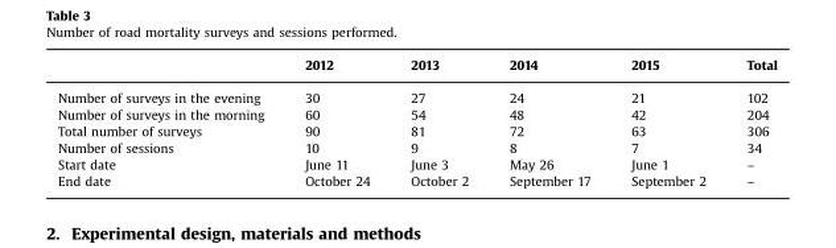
<table><thead><tr><td></td><td>2012</td><td>2013</td><td>2014</td><td>2015</td><td>Total</td></tr></thead><tbody><tr><td>Number of surveys in the evening</td><td>30</td><td>27</td><td>24</td><td>21</td><td>102</td></tr><tr><td>Number of surveys in the morning</td><td>60</td><td>54</td><td>48</td><td>42</td><td>204</td></tr><tr><td>Total number of surveys</td><td>90</td><td>81</td><td>72</td><td>63</td><td>306</td></tr><tr><td>Number of sessions</td><td>10</td><td>9</td><td>8</td><td>7</td><td>34</td></tr><tr><td>Start date</td><td>June 11</td><td>June 3</td><td>May 26</td><td>June 1</td><td>–</td></tr><tr><td>End date</td><td>October 24</td><td>October 2</td><td>September 17</td><td>September 2</td><td>–</td></tr></tbody></table>